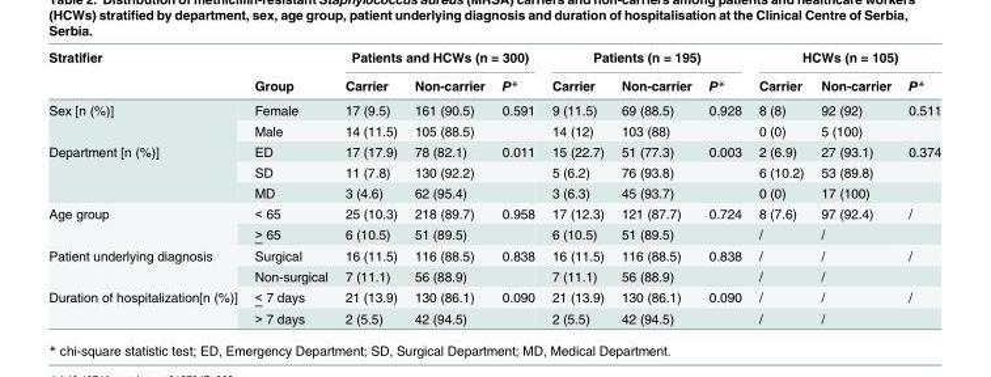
<table><thead><tr><td rowspan="2">Stratifier</td><td rowspan="2">Group</td><td colspan="3">Patients and HCWs (n = 300)</td><td colspan="3">Patients (n = 195)</td><td colspan="3">HCWs (n = 105)</td></tr><tr><td>Carrier</td><td>Non-carrier</td><td>P*</td><td>Carrier</td><td>Non-carrier</td><td>P*</td><td>Carrier</td><td>Non-carrier</td><td>P*</td></tr></thead><tbody><tr><td rowspan="2">Sex [n (%)]</td><td>Female</td><td>17 (9.5)</td><td>161 (90.5)</td><td>0.591</td><td>9 (11.5)</td><td>69 (88.5)</td><td>0.928</td><td>8 (8)</td><td>92 (92)</td><td>0.511</td></tr><tr><td>Male</td><td>14 (11.5)</td><td>105 (88.5)</td><td></td><td>14 (12)</td><td>103 (88)</td><td></td><td>0 (0)</td><td>5 (100)</td><td></td></tr><tr><td rowspan="3">Department [n (%)]</td><td>ED</td><td>17 (17.9)</td><td>78 (82.1)</td><td>0.011</td><td>15 (22.7)</td><td>51 (77.3)</td><td>0.003</td><td>2 (6.9)</td><td>27 (93.1)</td><td>0.374</td></tr><tr><td>SD</td><td>11 (7.8)</td><td>130 (92.2)</td><td></td><td>5 (6.2)</td><td>76 (93.8)</td><td></td><td>6 (10.2)</td><td>53 (89.8)</td><td></td></tr><tr><td>MD</td><td>3 (4.6)</td><td>62 (95.4)</td><td></td><td>3 (6.3)</td><td>45 (93.7)</td><td></td><td>0 (0)</td><td>17 (100)</td><td></td></tr><tr><td rowspan="2">Age group</td><td>&lt; 65</td><td>25 (10.3)</td><td>218 (89.7)</td><td>0.958</td><td>17 (12.3)</td><td>121 (87.7)</td><td>0.724</td><td>8 (7.6)</td><td>97 (92.4)</td><td>/</td></tr><tr><td>&gt; 65</td><td>6 (10.5)</td><td>51 (89.5)</td><td></td><td>6 (10.5)</td><td>51 (89.5)</td><td></td><td>/</td><td>/</td><td></td></tr><tr><td rowspan="2">Patient underlying diagnosis</td><td>Surgical</td><td>16 (11.5)</td><td>116 (88.5)</td><td>0.838</td><td>16 (11.5)</td><td>116 (88.5)</td><td>0.838</td><td>/</td><td>/</td><td>/</td></tr><tr><td>Non-surgical</td><td>7 (11.1)</td><td>56 (88.9)</td><td></td><td>7 (11.1)</td><td>56 (88.9)</td><td></td><td>/</td><td>/</td><td></td></tr><tr><td rowspan="2">Duration of hospitalization[n (%)]</td><td>&lt; 7 days</td><td>21 (13.9)</td><td>130 (86.1)</td><td>0.090</td><td>21 (13.9)</td><td>130 (86.1)</td><td>0.090</td><td>/</td><td>/</td><td>/</td></tr><tr><td>&gt; 7 days</td><td>2 (5.5)</td><td>42 (94.5)</td><td></td><td>2 (5.5)</td><td>42 (94.5)</td><td></td><td>/</td><td>/</td><td></td></tr></tbody></table>